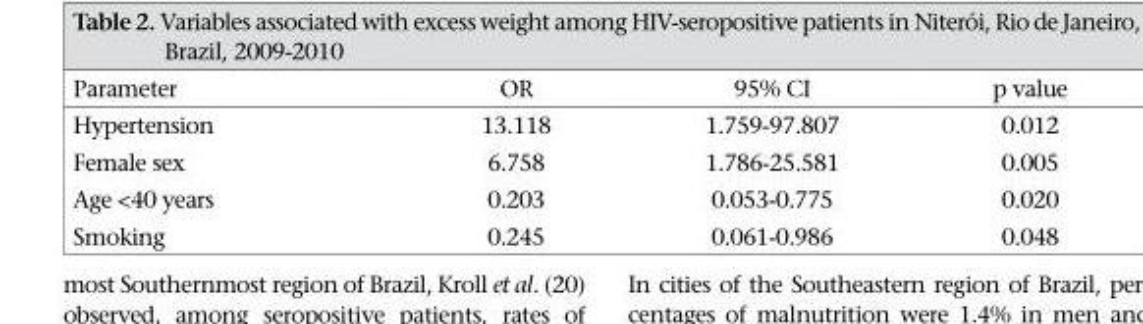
<table><thead><tr><td>Parameter</td><td>OR</td><td>95% CI</td><td>p value</td></tr></thead><tbody><tr><td>Hypertension</td><td>13.118</td><td>1.759-97.807</td><td>0.012</td></tr><tr><td>Female sex</td><td>6.758</td><td>1.786-25.581</td><td>0.005</td></tr><tr><td>Age &lt;40 years</td><td>0.203</td><td>0.053-0.775</td><td>0.020</td></tr><tr><td>Smoking</td><td>0.245</td><td>0.061-0.986</td><td>0.048</td></tr></tbody></table>